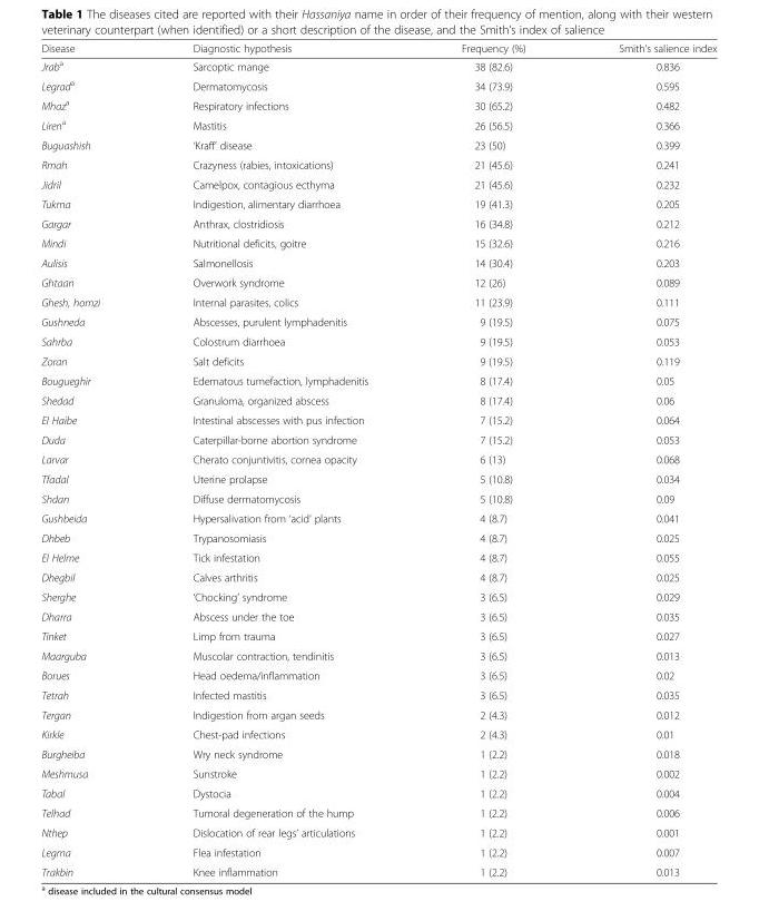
<table><thead><tr><td>Disease</td><td>Diagnostic hypothesis</td><td>Frequency (%)</td><td>Smith’s salience index</td></tr></thead><tbody><tr><td>Jrab<sup>a</sup></td><td>Sarcoptic mange</td><td>38 (82.6)</td><td>0.836</td></tr><tr><td>Legrad<sup>a</sup></td><td>Dermatomycosis</td><td>34 (73.9)</td><td>0.595</td></tr><tr><td>Mhaz<sup>a</sup></td><td>Respiratory infections</td><td>30 (65.2)</td><td>0.482</td></tr><tr><td>Liren<sup>a</sup></td><td>Mastitis</td><td>26 (56.5)</td><td>0.366</td></tr><tr><td>Buguashish</td><td>‘Kraff’ disease</td><td>23 (50)</td><td>0.399</td></tr><tr><td>Rmah</td><td>Crazyness (rabies, intoxications)</td><td>21 (45.6)</td><td>0.241</td></tr><tr><td>Jidril</td><td>Camelpox, contagious ecthyma</td><td>21 (45.6)</td><td>0.232</td></tr><tr><td>Tukma</td><td>Indigestion, alimentary diarrhoea</td><td>19 (41.3)</td><td>0.205</td></tr><tr><td>Gargar</td><td>Anthrax, clostridiosis</td><td>16 (34.8)</td><td>0.212</td></tr><tr><td>Mindi</td><td>Nutritional deficits, goitre</td><td>15 (32.6)</td><td>0.216</td></tr><tr><td>Aulisis</td><td>Salmonellosis</td><td>14 (30.4)</td><td>0.203</td></tr><tr><td>Ghtaan</td><td>Overwork syndrome</td><td>12 (26)</td><td>0.089</td></tr><tr><td>Ghesh, homzi</td><td>Internal parasites, colics</td><td>11 (23.9)</td><td>0.111</td></tr><tr><td>Gushneda</td><td>Abscesses, purulent lymphadenitis</td><td>9 (19.5)</td><td>0.075</td></tr><tr><td>Sahrba</td><td>Colostrum diarrhoea</td><td>9 (19.5)</td><td>0.053</td></tr><tr><td>Zoran</td><td>Salt deficits</td><td>9 (19.5)</td><td>0.119</td></tr><tr><td>Bougueghir</td><td>Edematous tumefaction, lymphadenitis</td><td>8 (17.4)</td><td>0.05</td></tr><tr><td>Shedad</td><td>Granuloma, organized abscess</td><td>8 (17.4)</td><td>0.06</td></tr><tr><td>El Haibe</td><td>Intestinal abscesses with pus infection</td><td>7 (15.2)</td><td>0.064</td></tr><tr><td>Duda</td><td>Caterpillar-borne abortion syndrome</td><td>7 (15.2)</td><td>0.053</td></tr><tr><td>Larvar</td><td>Cherato conjuntivitis, cornea opacity</td><td>6 (13)</td><td>0.068</td></tr><tr><td>Tfadal</td><td>Uterine prolapse</td><td>5 (10.8)</td><td>0.034</td></tr><tr><td>Shdan</td><td>Diffuse dermatomycosis</td><td>5 (10.8)</td><td>0.09</td></tr><tr><td>Gushbeida</td><td>Hypersalivation from ‘acid’ plants</td><td>4 (8.7)</td><td>0.041</td></tr><tr><td>Dhbeb</td><td>Trypanosomiasis</td><td>4 (8.7)</td><td>0.025</td></tr><tr><td>El Helme</td><td>Tick infestation</td><td>4 (8.7)</td><td>0.055</td></tr><tr><td>Dhegbil</td><td>Calves arthritis</td><td>4 (8.7)</td><td>0.025</td></tr><tr><td>Sherghe</td><td>‘Chocking’ syndrome</td><td>3 (6.5)</td><td>0.029</td></tr><tr><td>Dharra</td><td>Abscess under the toe</td><td>3 (6.5)</td><td>0.035</td></tr><tr><td>Tinket</td><td>Limp from trauma</td><td>3 (6.5)</td><td>0.027</td></tr><tr><td>Maarguba</td><td>Muscolar contraction, tendinitis</td><td>3 (6.5)</td><td>0.013</td></tr><tr><td>Borues</td><td>Head oedema/inflammation</td><td>3 (6.5)</td><td>0.02</td></tr><tr><td>Tetrah</td><td>Infected mastitis</td><td>3 (6.5)</td><td>0.035</td></tr><tr><td>Tergan</td><td>Indigestion from argan seeds</td><td>2 (4.3)</td><td>0.012</td></tr><tr><td>Kirkle</td><td>Chest-pad infections</td><td>2 (4.3)</td><td>0.01</td></tr><tr><td>Burgheiba</td><td>Wry neck syndrome</td><td>1 (2.2)</td><td>0.018</td></tr><tr><td>Meshmusa</td><td>Sunstroke</td><td>1 (2.2)</td><td>0.002</td></tr><tr><td>Tabal</td><td>Dystocia</td><td>1 (2.2)</td><td>0.004</td></tr><tr><td>Telhad</td><td>Tumoral degeneration of the hump</td><td>1 (2.2)</td><td>0.006</td></tr><tr><td>Nthep</td><td>Dislocation of rear legs’ articulations</td><td>1 (2.2)</td><td>0.001</td></tr><tr><td>Legma</td><td>Flea infestation</td><td>1 (2.2)</td><td>0.007</td></tr><tr><td>Trakbin</td><td>Knee inflammation</td><td>1 (2.2)</td><td>0.013</td></tr></tbody></table>